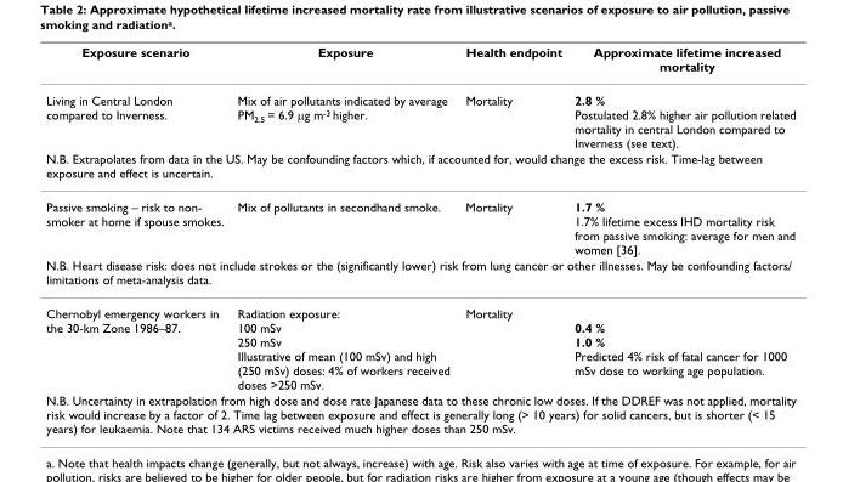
<table><thead><tr><td>Exposure scenario</td><td>Exposure</td><td>Health endpoint</td><td>Approximate lifetime increased mortality</td></tr></thead><tbody><tr><td>Living in Central London compared to Inverness.</td><td>Mix of air pollutants indicated by average PM<sub>2.5</sub> = 6.9 μg m<sup>-3</sup> higher.</td><td>Mortality</td><td>2.8 % Postulated 2.8% higher air pollution related mortality in central London compared to Inverness (see text).</td></tr><tr><td colspan="4">N.B. Extrapolates from data in the US. May be confounding factors which, if accounted for, would change the excess risk. Time-lag between exposure and effect is uncertain.</td></tr><tr><td>Passive smoking – risk to non- smoker at home if spouse smokes.</td><td>Mix of pollutants in secondhand smoke.</td><td>Mortality</td><td>1.7 % 1.7% lifetime excess IHD mortality risk from passive smoking: average for men and women [36].</td></tr><tr><td colspan="4">N.B. Heart disease risk: does not include strokes or the (significantly lower) risk from lung cancer or other illnesses. May be confounding factors/ limitations of meta-analysis data.</td></tr><tr><td>Chernobyl emergency workers in the 30-km Zone 1986–87.</td><td>Radiation exposure: 100 mSv 250 mSv Illustrative of mean (100 mSv) and high (250 mSv) doses: 4% of workers received doses &gt;250 mSv.</td><td>Mortality</td><td>0.4 % 1.0 % Predicted 4% risk of fatal cancer for 1000 mSv dose to working age population.</td></tr><tr><td colspan="4">N.B. Uncertainty in extrapolation from high dose and dose rate Japanese data to these chronic low doses. If the DDREF was not applied, mortality risk would increase by a factor of 2. Time lag between exposure and effect is generally long (&gt; 10 years) for solid cancers, but is shorter (&lt; 15 years) for leukaemia. Note that 134 ARS victims received much higher doses than 250 mSv.</td></tr></tbody></table>